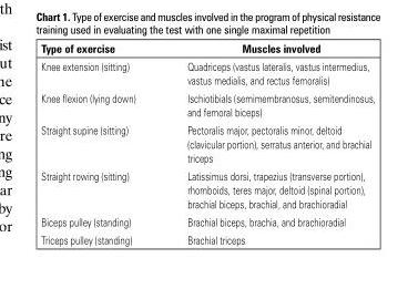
<table><thead><tr><td>Type of exercise</td><td>Muscles involved</td></tr></thead><tbody><tr><td>Knee extension (sitting)</td><td>Quadriceps (vastus lateralis, vastus intermedius, vastus medialis, and rectus femoralis)</td></tr><tr><td>Knee flexion (lying down)</td><td>Ischiotibials (semimembranosus, semitendinosus, and femoral biceps)</td></tr><tr><td>Straight supine (sitting)</td><td>Pectoralis major, pectoralis minor, deltoid (clavicular portion), serratus anterior, and brachial triceps</td></tr><tr><td>Straight rowing (sitting)</td><td>Latissimus dorsi, trapezius (transverse portion), rhomboids, teres major, deltoid (spinal portion), brachial biceps, brachial, and brachioradial</td></tr><tr><td>Biceps pulley (standing)</td><td>Brachial biceps, brachia, and brachioradial</td></tr><tr><td>Triceps pulley (standing)</td><td>Brachial triceps</td></tr></tbody></table>